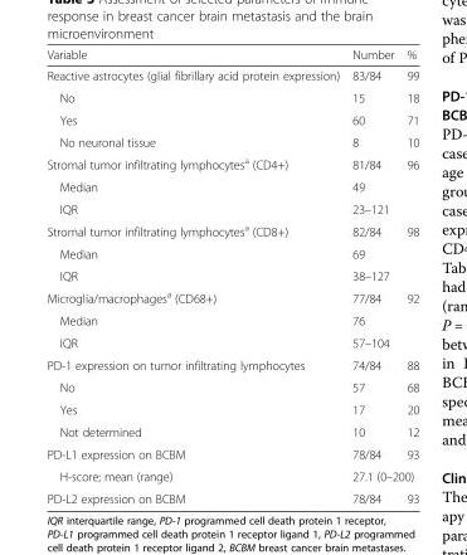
<table><thead><tr><td>Variable</td><td>Number</td><td>%</td></tr></thead><tbody><tr><td>Reactive astrocytes (glial fibrillary acid protein expression)</td><td>83/84</td><td>99</td></tr><tr><td>No</td><td>15</td><td>18</td></tr><tr><td>Yes</td><td>60</td><td>71</td></tr><tr><td>No neuronal tissue</td><td>8</td><td>10</td></tr><tr><td>Stromal tumor infiltrating lymphocytes<sup>a</sup> (CD4+)</td><td>81/84</td><td>96</td></tr><tr><td>Median</td><td>49</td><td></td></tr><tr><td>IQR</td><td>23–121</td><td></td></tr><tr><td>Stromal tumor infiltrating lymphocytes<sup>a</sup> (CD8+)</td><td>82/84</td><td>98</td></tr><tr><td>Median</td><td>69</td><td></td></tr><tr><td>IQR</td><td>38–127</td><td></td></tr><tr><td>Microglia/macrophages<sup>a</sup> (CD68+)</td><td>77/84</td><td>92</td></tr><tr><td>Median</td><td>76</td><td></td></tr><tr><td>IQR</td><td>57–104</td><td></td></tr><tr><td>PD-1 expression on tumor infiltrating lymphocytes</td><td>74/84</td><td>88</td></tr><tr><td>No</td><td>57</td><td>68</td></tr><tr><td>Yes</td><td>17</td><td>20</td></tr><tr><td>Not determined</td><td>10</td><td>12</td></tr><tr><td>PD-L1 expression on BCBM</td><td>78/84</td><td>93</td></tr><tr><td>H-score; mean (range)</td><td colspan="2">27.1 (0–200)</td></tr><tr><td>PD-L2 expression on BCBM</td><td>78/84</td><td>93</td></tr></tbody></table>